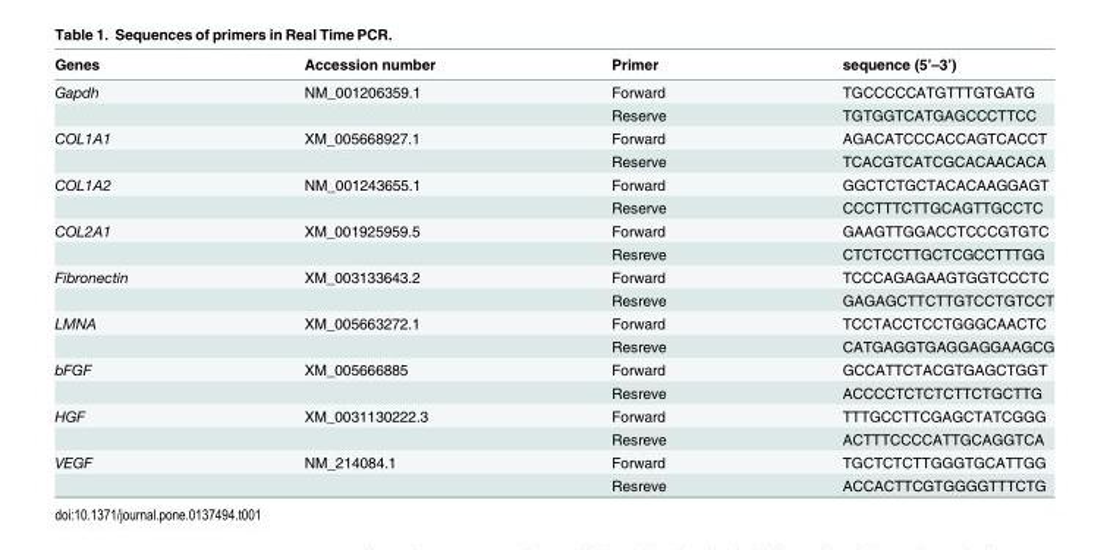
<table><thead><tr><td>Genes</td><td>Accession number</td><td>Primer</td><td>sequence (5’–3’)</td></tr></thead><tbody><tr><td rowspan="2">Gapdh</td><td>NM_001206359.1</td><td>Forward</td><td>TGCCCCCATGTTTGTGATG</td></tr><tr><td></td><td>Reserve</td><td>TGTGGTCATGAGCCCTTCC</td></tr><tr><td rowspan="2">COL1A1</td><td>XM_005668927.1</td><td>Forward</td><td>AGACATCCCACCAGTCACCT</td></tr><tr><td></td><td>Reserve</td><td>TCACGTCATCGCACAACACA</td></tr><tr><td rowspan="2">COL1A2</td><td>NM_001243655.1</td><td>Forward</td><td>GGCTCTGCTACACAAGGAGT</td></tr><tr><td></td><td>Reserve</td><td>CCCTTTCTTGCAGTTGCCTC</td></tr><tr><td rowspan="2">COL2A1</td><td>XM_001925959.5</td><td>Forward</td><td>GAAGTTGGACCTCCCGTGTC</td></tr><tr><td></td><td>Resreve</td><td>CTCTCCTTGCTCGCCTTTGG</td></tr><tr><td rowspan="2">Fibronectin</td><td>XM_003133643.2</td><td>Forward</td><td>TCCCAGAGAAGTGGTCCCTC</td></tr><tr><td></td><td>Resreve</td><td>GAGAGCTTCTTGTCCTGTCCT</td></tr><tr><td rowspan="2">LMNA</td><td>XM_005663272.1</td><td>Forward</td><td>TCCTACCTCCTGGGCAACTC</td></tr><tr><td></td><td>Resreve</td><td>CATGAGGTGAGGAGGAAGCG</td></tr><tr><td rowspan="2">bFGF</td><td>XM_005666885</td><td>Forward</td><td>GCCATTCTACGTGAGCTGGT</td></tr><tr><td></td><td>Resreve</td><td>ACCCCTCTCTCTTCTGCTTG</td></tr><tr><td rowspan="2">HGF</td><td>XM_0031130222.3</td><td>Forward</td><td>TTTGCCTTCGAGCTATCGGG</td></tr><tr><td></td><td>Resreve</td><td>ACTTTCCCCATTGCAGGTCA</td></tr><tr><td rowspan="2">VEGF</td><td>NM_214084.1</td><td>Forward</td><td>TGCTCTCTTGGGTGCATTGG</td></tr><tr><td></td><td>Resreve</td><td>ACCACTTCGTGGGGTTTCTG</td></tr></tbody></table>